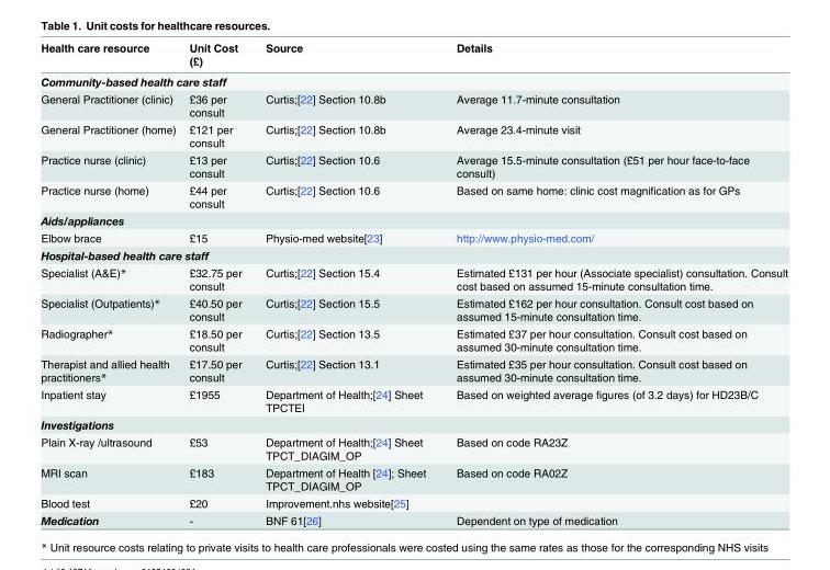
<table><thead><tr><td>Health care resource</td><td>Unit Cost (£)</td><td>Source</td><td>Details</td></tr></thead><tbody><tr><td colspan="4">Community-based health care staff</td></tr><tr><td>General Practitioner (clinic)</td><td>£36 per consult</td><td>Curtis;[22] Section 10.8b</td><td>Average 11.7-minute consultation</td></tr><tr><td>General Practitioner (home)</td><td>£121 per consult</td><td>Curtis;[22] Section 10.8b</td><td>Average 23.4-minute visit</td></tr><tr><td>Practice nurse (clinic)</td><td>£13 per consult</td><td>Curtis;[22] Section 10.6</td><td>Average 15.5-minute consultation (£51 per hour face-to-face consult)</td></tr><tr><td>Practice nurse (home)</td><td>£44 per consult</td><td>Curtis;[22] Section 10.6</td><td>Based on same home: clinic cost magnification as for GPs</td></tr><tr><td colspan="4">Aids/appliances</td></tr><tr><td>Elbow brace</td><td>£15</td><td>Physio-med website[23]</td><td>http://www.physio-med.com/</td></tr><tr><td colspan="4">Hospital-based health care staff</td></tr><tr><td>Specialist (A&amp;E)*</td><td>£32.75 per consult</td><td>Curtis;[22] Section 15.4</td><td>Estimated £131 per hour (Associate specialist) consultation. Consult cost based on assumed 15-minute consultation time.</td></tr><tr><td>Specialist (Outpatients)*</td><td>£40.50 per consult</td><td>Curtis;[22] Section 15.5</td><td>Estimated £162 per hour consultation. Consult cost based on assumed 15-minute consultation time.</td></tr><tr><td>Radiographer*</td><td>£18.50 per consult</td><td>Curtis;[22] Section 13.5</td><td>Estimated £37 per hour consultation. Consult cost based on assumed 30-minute consultation time.</td></tr><tr><td>Therapist and allied health practitioners*</td><td>£17.50 per consult</td><td>Curtis;[22] Section 13.1</td><td>Estimated £35 per hour consultation. Consult cost based on assumed 30-minute consultation time.</td></tr><tr><td>Inpatient stay</td><td>£1955</td><td>Department of Health;[24] Sheet TPCTEI</td><td>Based on weighted average figures (of 3.2 days) for HD23B/C</td></tr><tr><td colspan="4">Investigations</td></tr><tr><td>Plain X-ray /ultrasound</td><td>£53</td><td>Department of Health;[24] Sheet TPCT_DIAGIM_OP</td><td>Based on code RA23Z</td></tr><tr><td>MRI scan</td><td>£183</td><td>Department of Health [24]; Sheet TPCT_DIAGIM_OP</td><td>Based on code RA02Z</td></tr><tr><td>Blood test</td><td>£20</td><td>Improvement.nhs website[25]</td><td></td></tr><tr><td>Medication</td><td>-</td><td>BNF 61[26]</td><td>Dependent on type of medication</td></tr></tbody></table>